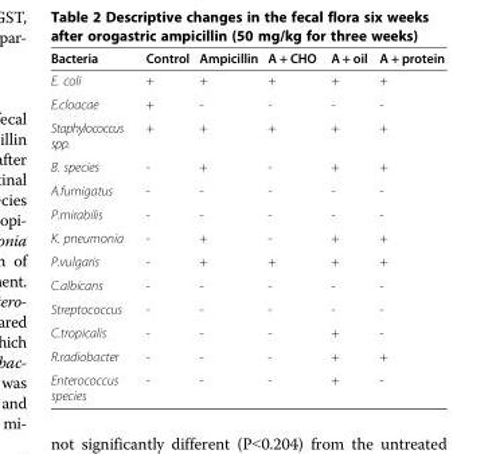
<table><thead><tr><td>Bacteria</td><td>Control</td><td>Ampicillin</td><td>A + CHO</td><td>A + oil</td><td>A + protein</td></tr></thead><tbody><tr><td>E. coli</td><td>+</td><td>+</td><td>+</td><td>+</td><td>+</td></tr><tr><td>E.cloacae</td><td>+</td><td>-</td><td>-</td><td>-</td><td>-</td></tr><tr><td>Staphylococcus spp.</td><td>+</td><td>+</td><td>+</td><td>+</td><td>+</td></tr><tr><td>B. species</td><td>-</td><td>+</td><td>-</td><td>+</td><td>+</td></tr><tr><td>A.fumigatus</td><td>-</td><td>-</td><td>-</td><td>-</td><td>-</td></tr><tr><td>P.mirabilis</td><td>-</td><td>-</td><td>-</td><td>-</td><td>-</td></tr><tr><td>K. pneumonia</td><td>-</td><td>+</td><td>-</td><td>+</td><td>+</td></tr><tr><td>P.vulgaris</td><td>-</td><td>+</td><td>+</td><td>+</td><td>+</td></tr><tr><td>C.albicans</td><td>-</td><td>-</td><td>-</td><td>-</td><td>-</td></tr><tr><td>Streptococcus</td><td>-</td><td>-</td><td>-</td><td>-</td><td>-</td></tr><tr><td>C.tropicalis</td><td>-</td><td>-</td><td>-</td><td>+</td><td>-</td></tr><tr><td>R.radiobacter</td><td>-</td><td>-</td><td>-</td><td>+</td><td>+</td></tr><tr><td>Enterococcus species</td><td>-</td><td>-</td><td>-</td><td>+</td><td>-</td></tr></tbody></table>